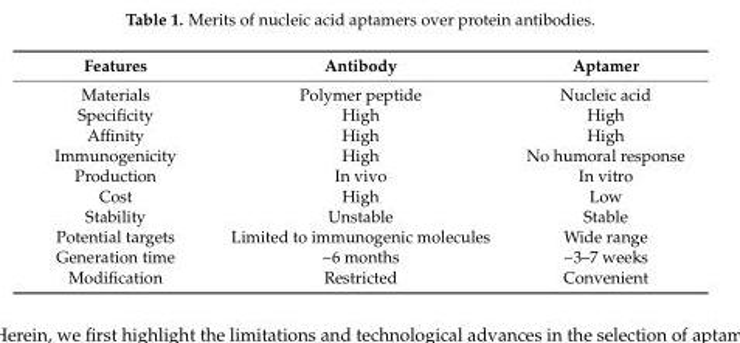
<table><thead><tr><td>Features</td><td>Antibody</td><td>Aptamer</td></tr></thead><tbody><tr><td>Materials</td><td>Polymer peptide</td><td>Nucleic acid</td></tr><tr><td>Specificity</td><td>High</td><td>High</td></tr><tr><td>Affinity</td><td>High</td><td>High</td></tr><tr><td>Immunogenicity</td><td>High</td><td>No humoral response</td></tr><tr><td>Production</td><td>In vivo</td><td>In vitro</td></tr><tr><td>Cost</td><td>High</td><td>Low</td></tr><tr><td>Stability</td><td>Unstable</td><td>Stable</td></tr><tr><td>Potential targets</td><td>Limited to immunogenic molecules</td><td>Wide range</td></tr><tr><td>Generation time</td><td>~6 months</td><td>~3–7 weeks</td></tr><tr><td>Modification</td><td>Restricted</td><td>Convenient</td></tr></tbody></table>